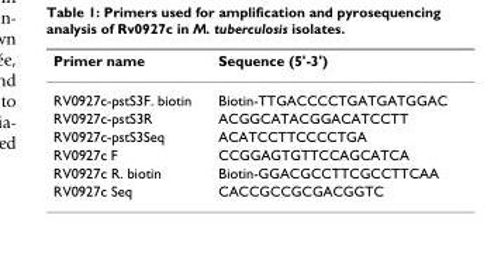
<table><thead><tr><td>Primer name</td><td>Sequence (5&#x27;-3&#x27;)</td></tr></thead><tbody><tr><td>RV0927c-pstS3F. biotin</td><td>Biotin-TTGACCCCTGATGATGGAC</td></tr><tr><td>RV0927c-pstS3R</td><td>ACGGCATACGGACATCCTT</td></tr><tr><td>RV0927c-pstS3Seq</td><td>ACATCCTTCCCCTGA</td></tr><tr><td>RV0927c F</td><td>CCGGAGTGTTCCAGCATCA</td></tr><tr><td>RV0927c R. biotin</td><td>Biotin-GGACGCCTTCGCCTTCAA</td></tr><tr><td>RV0927c Seq</td><td>CACCGCCGCGACGGTC</td></tr></tbody></table>